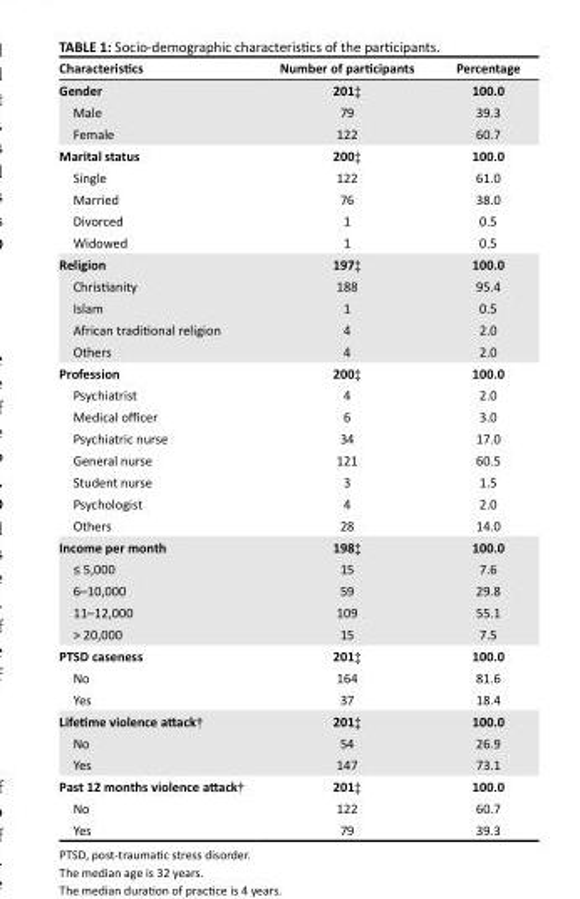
<table><thead><tr><td>Characteristics</td><td>Number of participants</td><td>Percentage</td></tr></thead><tbody><tr><td>Gender</td><td>201‡</td><td>100.0</td></tr><tr><td>Male</td><td>79</td><td>39.3</td></tr><tr><td>Female</td><td>122</td><td>60.7</td></tr><tr><td>Marital status</td><td>200‡</td><td>100.0</td></tr><tr><td>Single</td><td>122</td><td>61.0</td></tr><tr><td>Married</td><td>76</td><td>38.0</td></tr><tr><td>Divorced</td><td>1</td><td>0.5</td></tr><tr><td>Widowed</td><td>1</td><td>0.5</td></tr><tr><td>Religion</td><td>197‡</td><td>100.0</td></tr><tr><td>Christianity</td><td>188</td><td>95.4</td></tr><tr><td>Islam</td><td>1</td><td>0.5</td></tr><tr><td>African traditional religion</td><td>4</td><td>2.0</td></tr><tr><td>Others</td><td>4</td><td>2.0</td></tr><tr><td>Profession</td><td>200‡</td><td>100.0</td></tr><tr><td>Psychiatrist</td><td>4</td><td>2.0</td></tr><tr><td>Medical officer</td><td>6</td><td>3.0</td></tr><tr><td>Psychiatric nurse</td><td>34</td><td>17.0</td></tr><tr><td>General nurse</td><td>121</td><td>60.5</td></tr><tr><td>Student nurse</td><td>3</td><td>1.5</td></tr><tr><td>Psychologist</td><td>4</td><td>2.0</td></tr><tr><td>Others</td><td>28</td><td>14.0</td></tr><tr><td>Income per month</td><td>198‡</td><td>100.0</td></tr><tr><td>≤ 5,000</td><td>15</td><td>7.6</td></tr><tr><td>6–10,000</td><td>59</td><td>29.8</td></tr><tr><td>11–12,000</td><td>109</td><td>55.1</td></tr><tr><td>&gt; 20,000</td><td>15</td><td>7.5</td></tr><tr><td>PTSD caseness</td><td>201‡</td><td>100.0</td></tr><tr><td>No</td><td>164</td><td>81.6</td></tr><tr><td>Yes</td><td>37</td><td>18.4</td></tr><tr><td>Lifetime violence attack†</td><td>201‡</td><td>100.0</td></tr><tr><td>No</td><td>54</td><td>26.9</td></tr><tr><td>Yes</td><td>147</td><td>73.1</td></tr><tr><td>Past 12 months violence attack†</td><td>201‡</td><td>100.0</td></tr><tr><td>No</td><td>122</td><td>60.7</td></tr><tr><td>Yes</td><td>79</td><td>39.3</td></tr></tbody></table>